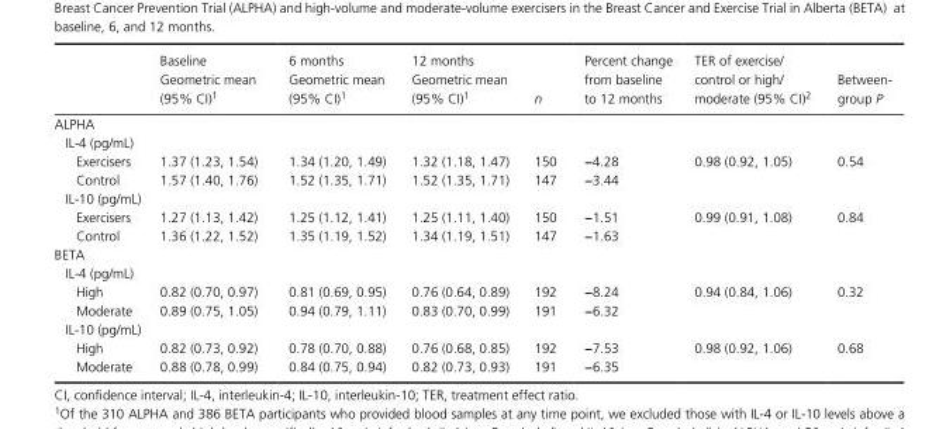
<table><thead><tr><td rowspan="2"></td><td rowspan="2">Baseline Geometric mean (95% CI)1</td><td rowspan="2">6 months Geometric mean (95% CI)1</td><td rowspan="2">12 months Geometric mean (95% CI)1</td><td rowspan="2">n</td><td rowspan="2">Percent change from baseline to 12 months</td><td rowspan="2">TER of exercise/ control or high/ moderate (95% CI)2</td><td rowspan="2">Between- group P</td></tr><tr></tr></thead><tbody><tr><td colspan="8">ALPHA</td></tr><tr><td colspan="8">IL- 4 (pg/mL)</td></tr><tr><td>Exercisers</td><td>1.37 (1.23, 1.54)</td><td>1.34 (1.20, 1.49)</td><td>1.32 (1.18, 1.47)</td><td>150</td><td>−4.28</td><td>0.98 (0.92, 1.05)</td><td>0.54</td></tr><tr><td>Control</td><td>1.57 (1.40, 1.76)</td><td>1.52 (1.35, 1.71)</td><td>1.52 (1.35, 1.71)</td><td>147</td><td>−3.44</td><td></td><td></td></tr><tr><td colspan="8">IL- 10 (pg/mL)</td></tr><tr><td>Exercisers</td><td>1.27 (1.13, 1.42)</td><td>1.25 (1.12, 1.41)</td><td>1.25 (1.11, 1.40)</td><td>150</td><td>−1.51</td><td>0.99 (0.91, 1.08)</td><td>0.84</td></tr><tr><td>Control</td><td>1.36 (1.22, 1.52)</td><td>1.35 (1.19, 1.52)</td><td>1.34 (1.19, 1.51)</td><td>147</td><td>−1.63</td><td></td><td></td></tr><tr><td colspan="8">BETA</td></tr><tr><td colspan="8">IL- 4 (pg/mL)</td></tr><tr><td>High</td><td>0.82 (0.70, 0.97)</td><td>0.81 (0.69, 0.95)</td><td>0.76 (0.64, 0.89)</td><td>192</td><td>−8.24</td><td>0.94 (0.84, 1.06)</td><td>0.32</td></tr><tr><td>Moderate</td><td>0.89 (0.75, 1.05)</td><td>0.94 (0.79, 1.11)</td><td>0.83 (0.70, 0.99)</td><td>191</td><td>−6.32</td><td></td><td></td></tr><tr><td colspan="8">IL- 10 (pg/mL)</td></tr><tr><td>High</td><td>0.82 (0.73, 0.92)</td><td>0.78 (0.70, 0.88)</td><td>0.76 (0.68, 0.85)</td><td>192</td><td>−7.53</td><td>0.98 (0.92, 1.06)</td><td>0.68</td></tr><tr><td>Moderate</td><td>0.88 (0.78, 0.99)</td><td>0.84 (0.75, 0.94)</td><td>0.82 (0.73, 0.93)</td><td>191</td><td>−6.35</td><td></td><td></td></tr></tbody></table>